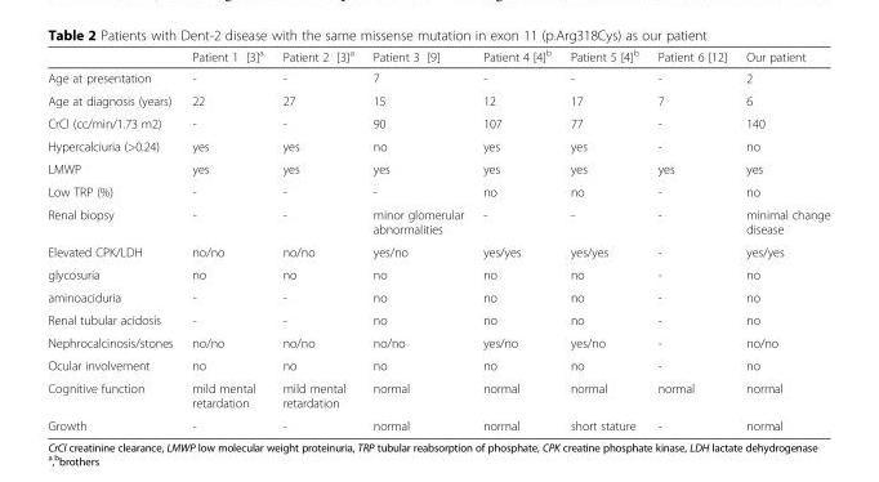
<table><thead><tr><td></td><td>Patient 1 [3]<sup>a</sup></td><td>Patient 2 [3]<sup>a</sup></td><td>Patient 3 [9]</td><td>Patient 4 [4]<sup>b</sup></td><td>Patient 5 [4]<sup>b</sup></td><td>Patient 6 [12]</td><td>Our patient</td></tr></thead><tbody><tr><td>Age at presentation</td><td>-</td><td>-</td><td>7</td><td>-</td><td>-</td><td>-</td><td>2</td></tr><tr><td>Age at diagnosis (years)</td><td>22</td><td>27</td><td>15</td><td>12</td><td>17</td><td>7</td><td>6</td></tr><tr><td>CrCl (cc/min/1.73 m2)</td><td>-</td><td>-</td><td>90</td><td>107</td><td>77</td><td>-</td><td>140</td></tr><tr><td>Hypercalciuria (&gt;0.24)</td><td>yes</td><td>yes</td><td>no</td><td>yes</td><td>yes</td><td>-</td><td>no</td></tr><tr><td>LMWP</td><td>yes</td><td>yes</td><td>yes</td><td>yes</td><td>yes</td><td>yes</td><td>yes</td></tr><tr><td>Low TRP (%)</td><td>-</td><td>-</td><td>-</td><td>no</td><td>no</td><td>-</td><td>no</td></tr><tr><td>Renal biopsy</td><td>-</td><td>-</td><td>minor glomerular abnormalities</td><td>-</td><td>-</td><td>-</td><td>minimal change disease</td></tr><tr><td>Elevated CPK/LDH</td><td>no/no</td><td>no/no</td><td>yes/no</td><td>yes/yes</td><td>yes/yes</td><td>-</td><td>yes/yes</td></tr><tr><td>glycosuria</td><td>no</td><td>no</td><td>no</td><td>no</td><td>no</td><td>-</td><td>no</td></tr><tr><td>aminoaciduria</td><td>-</td><td>-</td><td>no</td><td>no</td><td>no</td><td>-</td><td>no</td></tr><tr><td>Renal tubular acidosis</td><td>-</td><td>-</td><td>no</td><td>no</td><td>no</td><td>-</td><td>no</td></tr><tr><td>Nephrocalcinosis/stones</td><td>no/no</td><td>no/no</td><td>no/no</td><td>yes/no</td><td>yes/no</td><td>-</td><td>no/no</td></tr><tr><td>Ocular involvement</td><td>no</td><td>no</td><td>no</td><td>no</td><td>no</td><td>-</td><td>no</td></tr><tr><td>Cognitive function</td><td>mild mental retardation</td><td>mild mental retardation</td><td>normal</td><td>normal</td><td>normal</td><td>normal</td><td>normal</td></tr><tr><td>Growth</td><td>-</td><td>-</td><td>normal</td><td>normal</td><td>short stature</td><td>-</td><td>normal</td></tr></tbody></table>